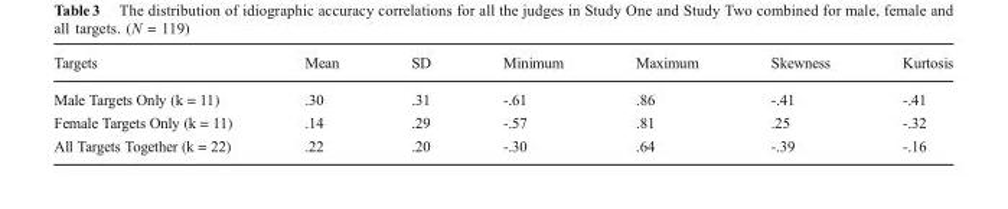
<table><thead><tr><td>Targets</td><td>Mean</td><td>SD</td><td>Minimum</td><td>Maximum</td><td>Skewness</td><td>Kurtosis</td></tr></thead><tbody><tr><td>Male Targets Only (k = 11)</td><td>.30</td><td>.31</td><td>-.61</td><td>.86</td><td>-.41</td><td>-.41</td></tr><tr><td>Female Targets Only (k = 11)</td><td>.14</td><td>.29</td><td>-.57</td><td>.81</td><td>.25</td><td>-.32</td></tr><tr><td>All Targets Together (k = 22)</td><td>.22</td><td>.20</td><td>-.30</td><td>.64</td><td>-.39</td><td>-.16</td></tr></tbody></table>